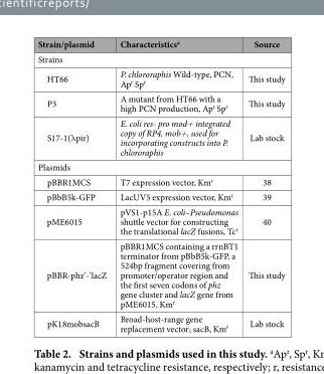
<table><thead><tr><td>Strain/plasmid</td><td>Characteristics<sup>a</sup></td><td>Source</td></tr></thead><tbody><tr><td colspan="3">Strains</td></tr><tr><td>HT66</td><td>P. chlororaphis Wild-type, PCN, Ap<sup>r</sup> Sp<sup>r</sup></td><td>This study</td></tr><tr><td>P3</td><td>A mutant from HT66 with a high PCN production, Ap<sup>r</sup> Sp<sup>r</sup></td><td>This study</td></tr><tr><td>S17-1(λ pir)</td><td>E. coli res- pro mod+ integrated copy of RP4, mob+, used for incorporating constructs into P. chlororaphis</td><td>Lab stock</td></tr><tr><td colspan="3">Plasmids</td></tr><tr><td>pBBR1MCS</td><td>T7 expression vector, Km<sup>r</sup></td><td>38</td></tr><tr><td>pBbB5k-GFP</td><td>LacUV5 expression vector, Km<sup>r</sup></td><td>39</td></tr><tr><td>pME6015</td><td>pVS1-p15A E. coli–Pseudomonas shuttle vector for constructing the translational lacZ fusions, Tc<sup>r</sup></td><td>40</td></tr><tr><td>pBBR-phz’-’lacZ</td><td>pBBR1MCS containing a rrnBT1 terminator from pBbB5k-GFP, a 524bp fragment covering from promoter/operator region and the first seven codons of phz gene cluster and lacZ gene from pME6015, Km<sup>r</sup></td><td>This study</td></tr><tr><td>pK18mobsacB</td><td>Broad-host-range gene replacement vector; sacB, Km<sup>r</sup></td><td>Lab stock</td></tr></tbody></table>